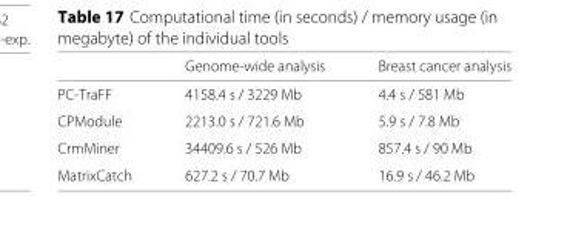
<table><thead><tr><td></td><td>Genome-wide analysis</td><td>Breast cancer analysis</td></tr></thead><tbody><tr><td>PC-TraFF</td><td>4158.4 s / 3229 Mb</td><td>4.4 s / 581 Mb</td></tr><tr><td>CPModule</td><td>2213.0 s / 721.6 Mb</td><td>5.9 s / 7.8 Mb</td></tr><tr><td>CrmMiner</td><td>34409.6 s / 526 Mb</td><td>857.4 s / 90 Mb</td></tr><tr><td>MatrixCatch</td><td>627.2 s / 70.7 Mb</td><td>16.9 s / 46.2 Mb</td></tr></tbody></table>